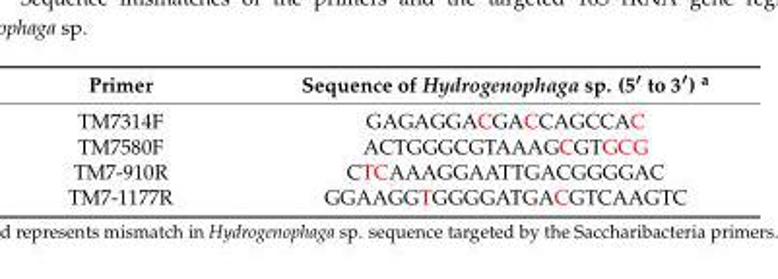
<table><thead><tr><td>Primer</td><td>Sequence of Hydrogenophaga sp. (5′ to 3′) <sup>a</sup></td></tr></thead><tbody><tr><td>TM7314F</td><td>GAGAGGACGACCAGCCAC</td></tr><tr><td>TM7580F</td><td>ACTGGGCGTAAAGCGTGCG</td></tr><tr><td>TM7-910R</td><td>CTCAAAGGAATTGACGGGGAC</td></tr><tr><td>TM7-1177R</td><td>GGAAGGTGGGGATGACGTCAAGTC</td></tr></tbody></table>